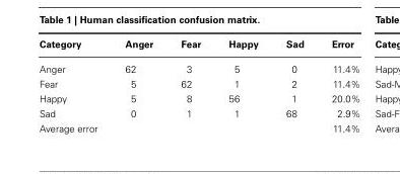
<table><thead><tr><td>Category</td><td>Anger</td><td>Fear</td><td>Happy</td><td>Sad</td><td>Error</td></tr></thead><tbody><tr><td>Anger</td><td>62</td><td>3</td><td>5</td><td>0</td><td>11.4%</td></tr><tr><td>Fear</td><td>5</td><td>62</td><td>1</td><td>2</td><td>11.4%</td></tr><tr><td>Happy</td><td>5</td><td>8</td><td>56</td><td>1</td><td>20.0%</td></tr><tr><td>Sad</td><td>0</td><td>1</td><td>1</td><td>68</td><td>2.9%</td></tr><tr><td>Average error</td><td></td><td></td><td></td><td></td><td>11.4%</td></tr></tbody></table>